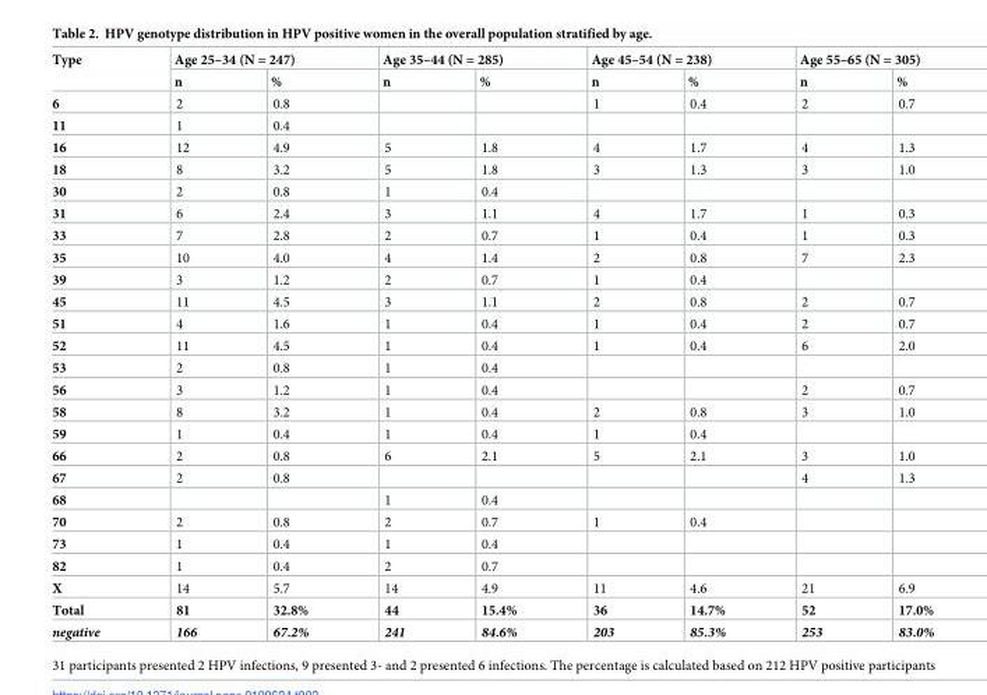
<table><thead><tr><td rowspan="2">Type</td><td colspan="2">Age 25–34 (N = 247)</td><td colspan="2">Age 35–44 (N = 285)</td><td colspan="2">Age 45–54 (N = 238)</td><td colspan="2">Age 55–65 (N = 305)</td></tr><tr><td>n</td><td>%</td><td>n</td><td>%</td><td>n</td><td>%</td><td>n</td><td>%</td></tr></thead><tbody><tr><td>6</td><td>2</td><td>0.8</td><td></td><td></td><td>1</td><td>0.4</td><td>2</td><td>0.7</td></tr><tr><td>11</td><td>1</td><td>0.4</td><td></td><td></td><td></td><td></td><td></td><td></td></tr><tr><td>16</td><td>12</td><td>4.9</td><td>5</td><td>1.8</td><td>4</td><td>1.7</td><td>4</td><td>1.3</td></tr><tr><td>18</td><td>8</td><td>3.2</td><td>5</td><td>1.8</td><td>3</td><td>1.3</td><td>3</td><td>1.0</td></tr><tr><td>30</td><td>2</td><td>0.8</td><td>1</td><td>0.4</td><td></td><td></td><td></td><td></td></tr><tr><td>31</td><td>6</td><td>2.4</td><td>3</td><td>1.1</td><td>4</td><td>1.7</td><td>1</td><td>0.3</td></tr><tr><td>33</td><td>7</td><td>2.8</td><td>2</td><td>0.7</td><td>1</td><td>0.4</td><td>1</td><td>0.3</td></tr><tr><td>35</td><td>10</td><td>4.0</td><td>4</td><td>1.4</td><td>2</td><td>0.8</td><td>7</td><td>2.3</td></tr><tr><td>39</td><td>3</td><td>1.2</td><td>2</td><td>0.7</td><td>1</td><td>0.4</td><td></td><td></td></tr><tr><td>45</td><td>11</td><td>4.5</td><td>3</td><td>1.1</td><td>2</td><td>0.8</td><td>2</td><td>0.7</td></tr><tr><td>51</td><td>4</td><td>1.6</td><td>1</td><td>0.4</td><td>1</td><td>0.4</td><td>2</td><td>0.7</td></tr><tr><td>52</td><td>11</td><td>4.5</td><td>1</td><td>0.4</td><td>1</td><td>0.4</td><td>6</td><td>2.0</td></tr><tr><td>53</td><td>2</td><td>0.8</td><td>1</td><td>0.4</td><td></td><td></td><td></td><td></td></tr><tr><td>56</td><td>3</td><td>1.2</td><td>1</td><td>0.4</td><td></td><td></td><td>2</td><td>0.7</td></tr><tr><td>58</td><td>8</td><td>3.2</td><td>1</td><td>0.4</td><td>2</td><td>0.8</td><td>3</td><td>1.0</td></tr><tr><td>59</td><td>1</td><td>0.4</td><td>1</td><td>0.4</td><td>1</td><td>0.4</td><td></td><td></td></tr><tr><td>66</td><td>2</td><td>0.8</td><td>6</td><td>2.1</td><td>5</td><td>2.1</td><td>3</td><td>1.0</td></tr><tr><td>67</td><td>2</td><td>0.8</td><td></td><td></td><td></td><td></td><td>4</td><td>1.3</td></tr><tr><td>68</td><td></td><td></td><td>1</td><td>0.4</td><td></td><td></td><td></td><td></td></tr><tr><td>70</td><td>2</td><td>0.8</td><td>2</td><td>0.7</td><td>1</td><td>0.4</td><td></td><td></td></tr><tr><td>73</td><td>1</td><td>0.4</td><td>1</td><td>0.4</td><td></td><td></td><td></td><td></td></tr><tr><td>82</td><td>1</td><td>0.4</td><td>2</td><td>0.7</td><td></td><td></td><td></td><td></td></tr><tr><td>X</td><td>14</td><td>5.7</td><td>14</td><td>4.9</td><td>11</td><td>4.6</td><td>21</td><td>6.9</td></tr><tr><td>Total</td><td>81</td><td>32.8%</td><td>44</td><td>15.4%</td><td>36</td><td>14.7%</td><td>52</td><td>17.0%</td></tr><tr><td>negative</td><td>166</td><td>67.2%</td><td>241</td><td>84.6%</td><td>203</td><td>85.3%</td><td>253</td><td>83.0%</td></tr></tbody></table>